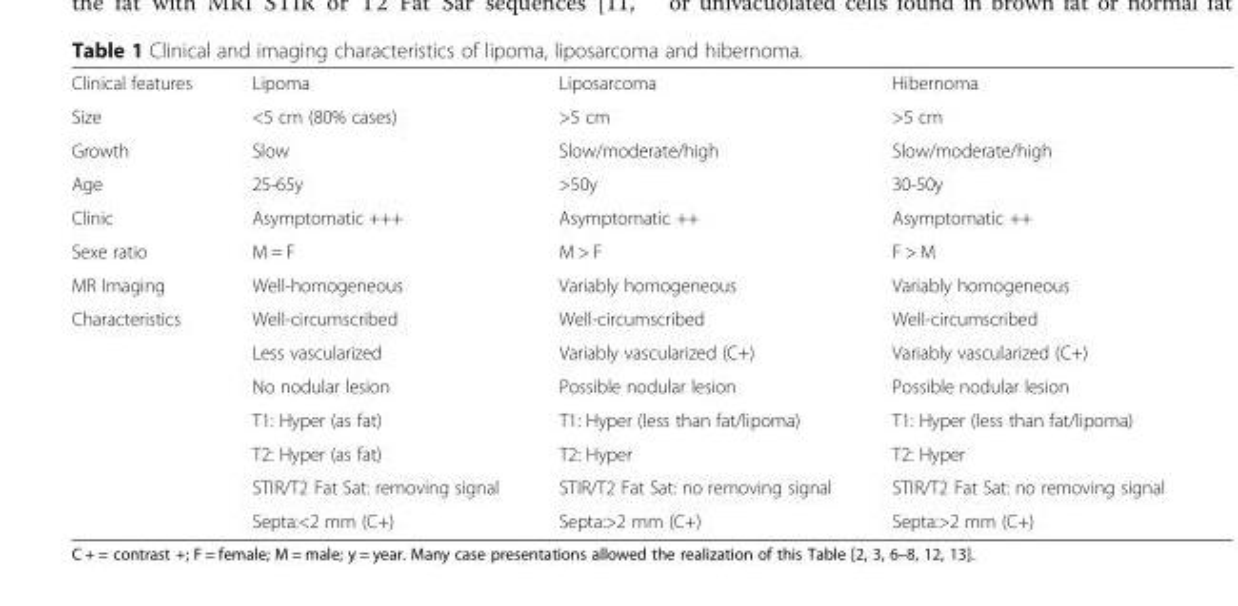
<table><tbody><tr><td>Clinical features</td><td>Lipoma</td><td>Liposarcoma</td><td>Hibernoma</td></tr><tr><td>Size</td><td>&lt;5 cm (80% cases)</td><td>&gt;5 cm</td><td>&gt;5 cm</td></tr><tr><td>Growth</td><td>Slow</td><td>Slow/moderate/high</td><td>Slow/moderate/high</td></tr><tr><td>Age</td><td>25-65y</td><td>&gt;50y</td><td>30-50y</td></tr><tr><td>Clinic</td><td>Asymptomatic +++</td><td>Asymptomatic ++</td><td>Asymptomatic ++</td></tr><tr><td>Sexe ratio</td><td>M = F</td><td>M &gt; F</td><td>F &gt; M</td></tr><tr><td>MR Imaging</td><td>Well-homogeneous</td><td>Variably homogeneous</td><td>Variably homogeneous</td></tr><tr><td rowspan="7">Characteristics</td><td>Well-circumscribed</td><td>Well-circumscribed</td><td>Well-circumscribed</td></tr><tr><td>Less vascularized</td><td>Variably vascularized (C+)</td><td>Variably vascularized (C+)</td></tr><tr><td>No nodular lesion</td><td>Possible nodular lesion</td><td>Possible nodular lesion</td></tr><tr><td>T1: Hyper (as fat)</td><td>T1: Hyper (less than fat/lipoma)</td><td>T1: Hyper (less than fat/lipoma)</td></tr><tr><td>T2: Hyper (as fat)</td><td>T2: Hyper</td><td>T2: Hyper</td></tr><tr><td>STIR/T2 Fat Sat: removing signal</td><td>STIR/T2 Fat Sat: no removing signal</td><td>STIR/T2 Fat Sat: no removing signal</td></tr><tr><td>Septa:&lt;2 mm (C+)</td><td>Septa:&gt;2 mm (C+)</td><td>Septa:&gt;2 mm (C+)</td></tr></tbody></table>